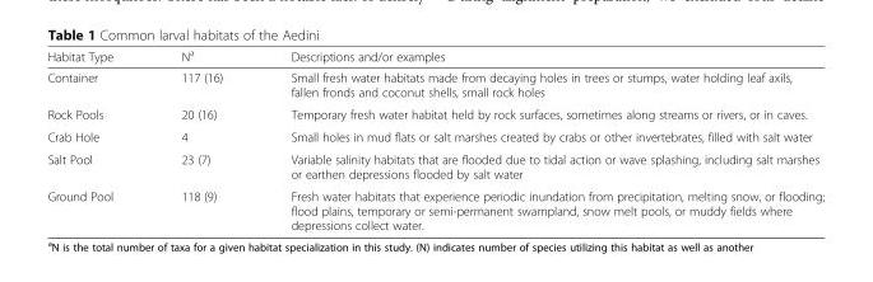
<table><thead><tr><td>Habitat Type</td><td>N<sup>a</sup></td><td>Descriptions and/or examples</td></tr></thead><tbody><tr><td>Container</td><td>117 (16)</td><td>Small fresh water habitats made from decaying holes in trees or stumps, water holding leaf axils, fallen fronds and coconut shells, small rock holes</td></tr><tr><td>Rock Pools</td><td>20 (16)</td><td>Temporary fresh water habitat held by rock surfaces, sometimes along streams or rivers, or in caves.</td></tr><tr><td>Crab Hole</td><td>4</td><td>Small holes in mud flats or salt marshes created by crabs or other invertebrates, filled with salt water</td></tr><tr><td>Salt Pool</td><td>23 (7)</td><td>Variable salinity habitats that are flooded due to tidal action or wave splashing, including salt marshes or earthen depressions flooded by salt water</td></tr><tr><td>Ground Pool</td><td>118 (9)</td><td>Fresh water habitats that experience periodic inundation from precipitation, melting snow, or flooding; flood plains, temporary or semi-permanent swampland, snow melt pools, or muddy fields where depressions collect water.</td></tr></tbody></table>